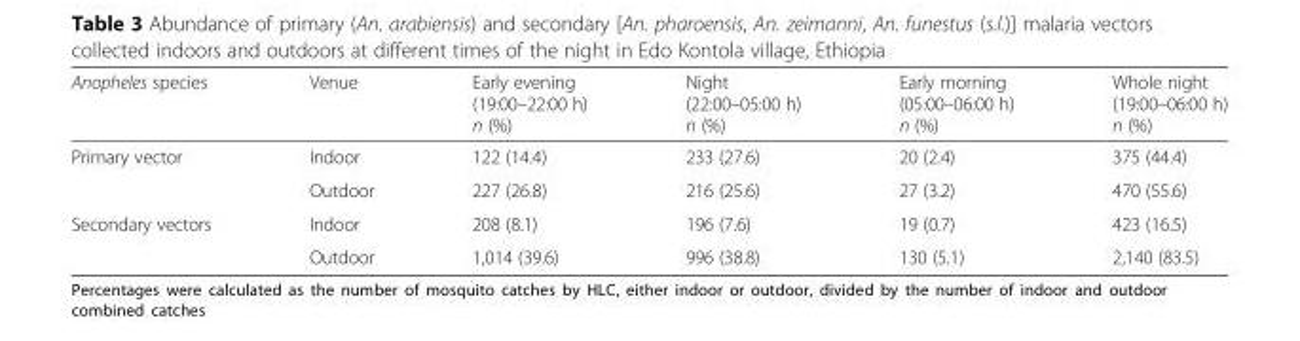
<table><thead><tr><td>Anopheles species</td><td>Venue</td><td>Early evening (19:00–22:00 h) n (%)</td><td>Night (22:00–05:00 h) n (%)</td><td>Early morning (05:00–06:00 h) n (%)</td><td>Whole night (19:00–06:00 h) n (%)</td></tr></thead><tbody><tr><td rowspan="2">Primary vector</td><td>Indoor</td><td>122 (14.4)</td><td>233 (27.6)</td><td>20 (2.4)</td><td>375 (44.4)</td></tr><tr><td>Outdoor</td><td>227 (26.8)</td><td>216 (25.6)</td><td>27 (3.2)</td><td>470 (55.6)</td></tr><tr><td rowspan="2">Secondary vectors</td><td>Indoor</td><td>208 (8.1)</td><td>196 (7.6)</td><td>19 (0.7)</td><td>423 (16.5)</td></tr><tr><td>Outdoor</td><td>1,014 (39.6)</td><td>996 (38.8)</td><td>130 (5.1)</td><td>2,140 (83.5)</td></tr></tbody></table>